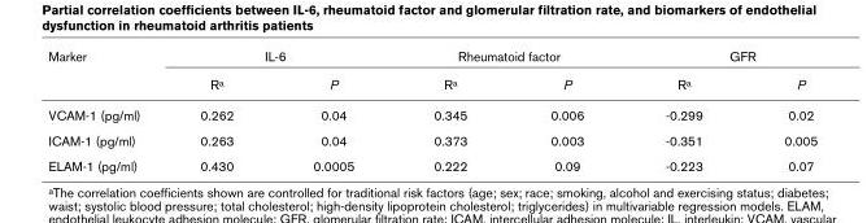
<table><thead><tr><td rowspan="2">Marker</td><td colspan="2">IL-6</td><td colspan="2">Rheumatoid factor</td><td colspan="2">GFR</td></tr><tr><td>Ra</td><td>P</td><td>Ra</td><td>P</td><td>Ra</td><td>P</td></tr></thead><tbody><tr><td>VCAM-1 (pg/ml)</td><td>0.262</td><td>0.04</td><td>0.345</td><td>0.006</td><td>-0.299</td><td>0.02</td></tr><tr><td>ICAM-1 (pg/ml)</td><td>0.263</td><td>0.04</td><td>0.373</td><td>0.003</td><td>-0.351</td><td>0.005</td></tr><tr><td>ELAM-1 (pg/ml)</td><td>0.430</td><td>0.0005</td><td>0.222</td><td>0.09</td><td>-0.223</td><td>0.07</td></tr></tbody></table>